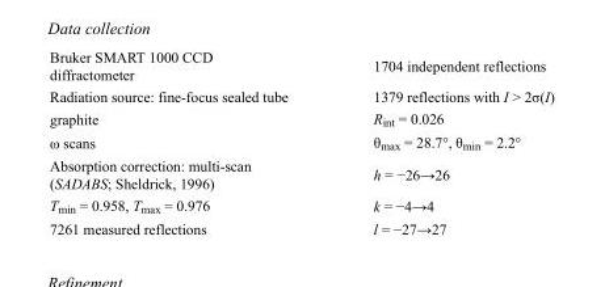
<table><tbody><tr><td>Bruker SMART 1000 CCD diffractometer</td><td>1704 independent reflections</td></tr><tr><td>Radiation source: fine-focus sealed tube</td><td>1379 reflections with I &gt; 2σ(I)</td></tr><tr><td>graphite</td><td>R<sub>int</sub> = 0.026</td></tr><tr><td>ω scans</td><td>θ<sub>max</sub> = 28.7°, θ<sub>min</sub> = 2.2°</td></tr><tr><td>Absorption correction: multi-scan (SADABS; Sheldrick, 1996)</td><td>h = −26→26</td></tr><tr><td>T<sub>min</sub> = 0.958, T<sub>max</sub> = 0.976</td><td>k = −4→4</td></tr><tr><td>7261 measured reflections</td><td>l = −27→27</td></tr></tbody></table>